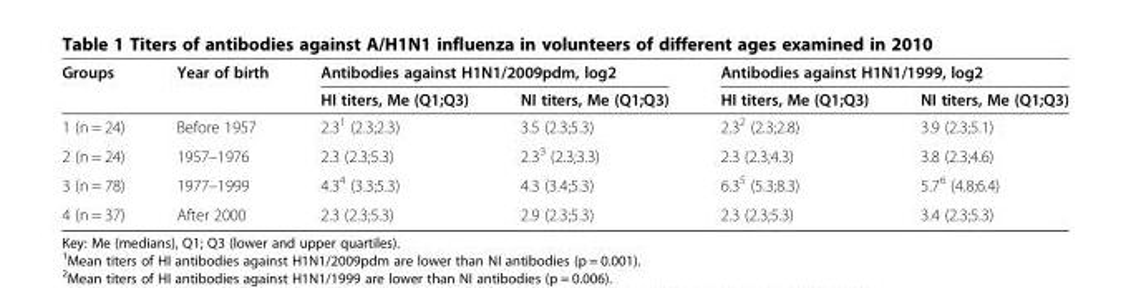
<table><thead><tr><td rowspan="2">Groups</td><td rowspan="2">Year of birth</td><td colspan="2">Antibodies against H1N1/2009pdm, log2</td><td colspan="2">Antibodies against H1N1/1999, log2</td></tr><tr><td>HI titers, Me (Q1;Q3)</td><td>NI titers, Me (Q1;Q3)</td><td>HI titers, Me (Q1;Q3)</td><td>NI titers, Me (Q1;Q3)</td></tr></thead><tbody><tr><td>1 (n = 24)</td><td>Before 1957</td><td>2.3<sup>1</sup> (2.3;2.3)</td><td>3.5 (2.3;5.3)</td><td>2.3<sup>2</sup> (2.3;2.8)</td><td>3.9 (2.3;5.1)</td></tr><tr><td>2 (n = 24)</td><td>1957–1976</td><td>2.3 (2.3;5.3)</td><td>2.3<sup>3</sup> (2.3;3.3)</td><td>2.3 (2.3;4.3)</td><td>3.8 (2.3;4.6)</td></tr><tr><td>3 (n = 78)</td><td>1977–1999</td><td>4.3<sup>4</sup> (3.3;5.3)</td><td>4.3 (3.4;5.3)</td><td>6.3<sup>5</sup> (5.3;8.3)</td><td>5.7<sup>6</sup> (4.8;6.4)</td></tr><tr><td>4 (n = 37)</td><td>After 2000</td><td>2.3 (2.3;5.3)</td><td>2.9 (2.3;5.3)</td><td>2.3 (2.3;5.3)</td><td>3.4 (2.3;5.3)</td></tr></tbody></table>